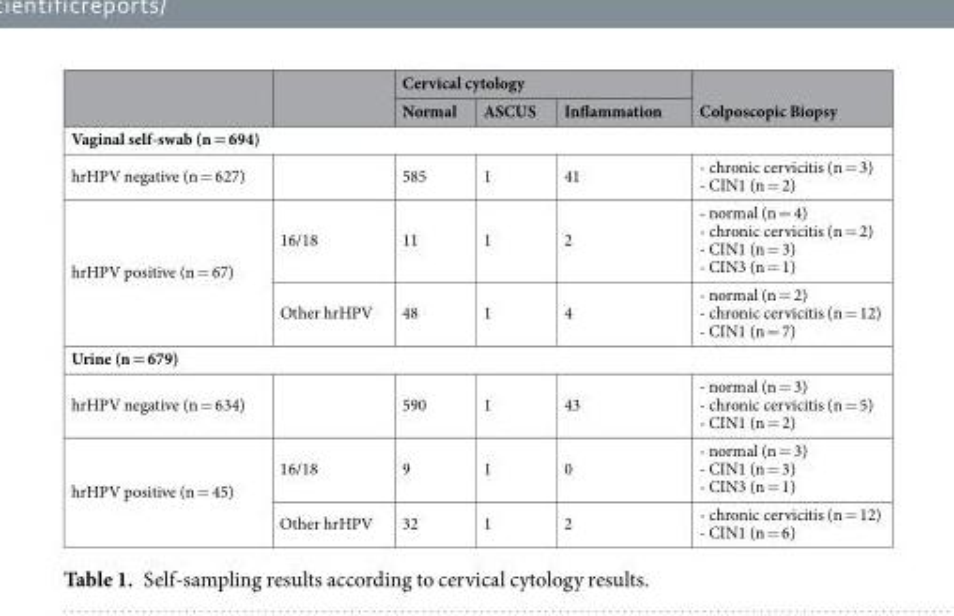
<table><thead><tr><td rowspan="2"></td><td rowspan="2"></td><td colspan="3">Cervical cytology</td><td rowspan="2">Colposcopic Biopsy</td></tr><tr><td>Normal</td><td>ASCUS</td><td>Inflammation</td></tr></thead><tbody><tr><td colspan="6">Vaginal self-swab (n = 694)</td></tr><tr><td>hrHPV negative (n = 627)</td><td></td><td>585</td><td>1</td><td>41</td><td>- chronic cervicitis (n = 3) - CIN1 (n = 2)</td></tr><tr><td rowspan="2">hrHPV positive (n = 67)</td><td>16/18</td><td>11</td><td>1</td><td>2</td><td>- normal (n = 4) - chronic cervicitis (n = 2) - CIN1 (n = 3) - CIN3 (n = 1)</td></tr><tr><td>Other hrHPV</td><td>48</td><td>1</td><td>4</td><td>- normal (n = 2) - chronic cervicitis (n = 12) - CIN1 (n = 7)</td></tr><tr><td colspan="6">Urine (n = 679)</td></tr><tr><td>hrHPV negative (n = 634)</td><td></td><td>590</td><td>1</td><td>43</td><td>- normal (n = 3) - chronic cervicitis (n = 5) - CIN1 (n = 2)</td></tr><tr><td rowspan="2">hrHPV positive (n = 45)</td><td>16/18</td><td>9</td><td>1</td><td>0</td><td>- normal (n = 3) - CIN1 (n = 3) - CIN3 (n = 1)</td></tr><tr><td>Other hrHPV</td><td>32</td><td>1</td><td>2</td><td>- chronic cervicitis (n = 12) - CIN1 (n = 6)</td></tr></tbody></table>